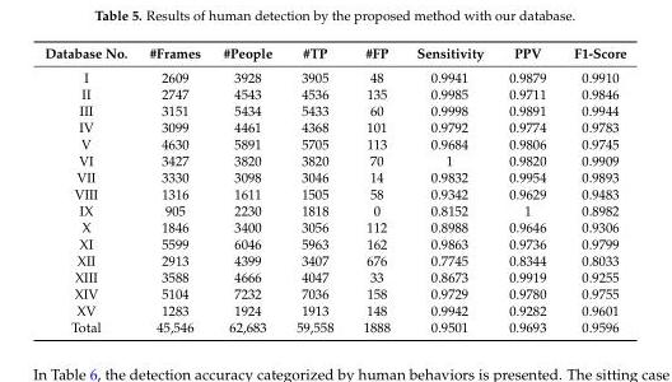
<table><thead><tr><td>Database No.</td><td>#Frames</td><td>#People</td><td>#TP</td><td>#FP</td><td>Sensitivity</td><td>PPV</td><td>F1-Score</td></tr></thead><tbody><tr><td>I</td><td>2609</td><td>3928</td><td>3905</td><td>48</td><td>0.9941</td><td>0.9879</td><td>0.9910</td></tr><tr><td>II</td><td>2747</td><td>4543</td><td>4536</td><td>135</td><td>0.9985</td><td>0.9711</td><td>0.9846</td></tr><tr><td>III</td><td>3151</td><td>5434</td><td>5433</td><td>60</td><td>0.9998</td><td>0.9891</td><td>0.9944</td></tr><tr><td>IV</td><td>3099</td><td>4461</td><td>4368</td><td>101</td><td>0.9792</td><td>0.9774</td><td>0.9783</td></tr><tr><td>V</td><td>4630</td><td>5891</td><td>5705</td><td>113</td><td>0.9684</td><td>0.9806</td><td>0.9745</td></tr><tr><td>VI</td><td>3427</td><td>3820</td><td>3820</td><td>70</td><td>1</td><td>0.9820</td><td>0.9909</td></tr><tr><td>VII</td><td>3330</td><td>3098</td><td>3046</td><td>14</td><td>0.9832</td><td>0.9954</td><td>0.9893</td></tr><tr><td>VIII</td><td>1316</td><td>1611</td><td>1505</td><td>58</td><td>0.9342</td><td>0.9629</td><td>0.9483</td></tr><tr><td>IX</td><td>905</td><td>2230</td><td>1818</td><td>0</td><td>0.8152</td><td>1</td><td>0.8982</td></tr><tr><td>X</td><td>1846</td><td>3400</td><td>3056</td><td>112</td><td>0.8988</td><td>0.9646</td><td>0.9306</td></tr><tr><td>XI</td><td>5599</td><td>6046</td><td>5963</td><td>162</td><td>0.9863</td><td>0.9736</td><td>0.9799</td></tr><tr><td>XII</td><td>2913</td><td>4399</td><td>3407</td><td>676</td><td>0.7745</td><td>0.8344</td><td>0.8033</td></tr><tr><td>XIII</td><td>3588</td><td>4666</td><td>4047</td><td>33</td><td>0.8673</td><td>0.9919</td><td>0.9255</td></tr><tr><td>XIV</td><td>5104</td><td>7232</td><td>7036</td><td>158</td><td>0.9729</td><td>0.9780</td><td>0.9755</td></tr><tr><td>XV</td><td>1283</td><td>1924</td><td>1913</td><td>148</td><td>0.9942</td><td>0.9282</td><td>0.9601</td></tr><tr><td>Total</td><td>45,546</td><td>62,683</td><td>59,558</td><td>1888</td><td>0.9501</td><td>0.9693</td><td>0.9596</td></tr></tbody></table>